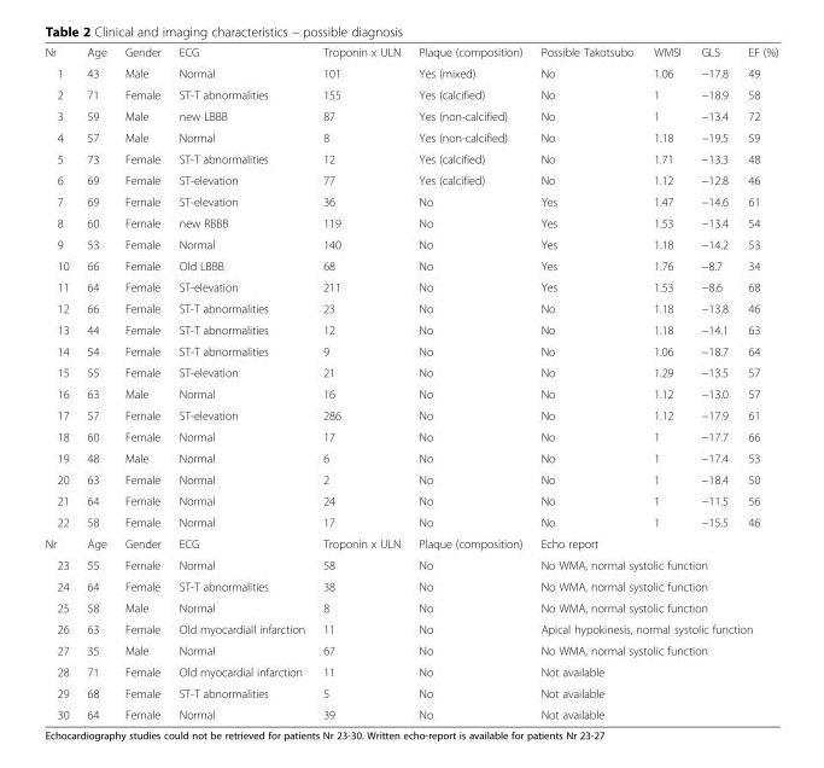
<table><tbody><tr><td>Nr</td><td>Age</td><td>Gender</td><td>ECG</td><td>Troponin x ULN</td><td>Plaque (composition)</td><td>Possible Takotsubo</td><td>WMSI</td><td>GLS</td><td>EF (%)</td></tr><tr><td>1</td><td>43</td><td>Male</td><td>Normal</td><td>101</td><td>Yes (mixed)</td><td>No</td><td>1.06</td><td>−17.8</td><td>49</td></tr><tr><td>2</td><td>71</td><td>Female</td><td>ST-T abnormalities</td><td>155</td><td>Yes (calcified)</td><td>No</td><td>1</td><td>−18.9</td><td>58</td></tr><tr><td>3</td><td>59</td><td>Male</td><td>new LBBB</td><td>87</td><td>Yes (non-calcified)</td><td>No</td><td>1</td><td>−13.4</td><td>72</td></tr><tr><td>4</td><td>57</td><td>Male</td><td>Normal</td><td>8</td><td>Yes (non-calcified)</td><td>No</td><td>1.18</td><td>−19.5</td><td>59</td></tr><tr><td>5</td><td>73</td><td>Female</td><td>ST-T abnormalities</td><td>12</td><td>Yes (calcified)</td><td>No</td><td>1.71</td><td>−13.3</td><td>48</td></tr><tr><td>6</td><td>69</td><td>Female</td><td>ST-elevation</td><td>77</td><td>Yes (calcified)</td><td>No</td><td>1.12</td><td>−12.8</td><td>46</td></tr><tr><td>7</td><td>69</td><td>Female</td><td>ST-elevation</td><td>36</td><td>No</td><td>Yes</td><td>1.47</td><td>−14.6</td><td>61</td></tr><tr><td>8</td><td>60</td><td>Female</td><td>new RBBB</td><td>119</td><td>No</td><td>Yes</td><td>1.53</td><td>−13.4</td><td>54</td></tr><tr><td>9</td><td>53</td><td>Female</td><td>Normal</td><td>140</td><td>No</td><td>Yes</td><td>1.18</td><td>−14.2</td><td>53</td></tr><tr><td>10</td><td>66</td><td>Female</td><td>Old LBBB</td><td>68</td><td>No</td><td>Yes</td><td>1.76</td><td>−8.7</td><td>34</td></tr><tr><td>11</td><td>64</td><td>Female</td><td>ST-elevation</td><td>211</td><td>No</td><td>Yes</td><td>1.53</td><td>−8.6</td><td>68</td></tr><tr><td>12</td><td>66</td><td>Female</td><td>ST-T abnormalities</td><td>23</td><td>No</td><td>No</td><td>1.18</td><td>−13.8</td><td>46</td></tr><tr><td>13</td><td>44</td><td>Female</td><td>ST-T abnormalities</td><td>12</td><td>No</td><td>No</td><td>1.18</td><td>−14.1</td><td>63</td></tr><tr><td>14</td><td>54</td><td>Female</td><td>ST-T abnormalities</td><td>9</td><td>No</td><td>No</td><td>1.06</td><td>−18.7</td><td>64</td></tr><tr><td>15</td><td>55</td><td>Female</td><td>ST-elevation</td><td>21</td><td>No</td><td>No</td><td>1.29</td><td>−13.5</td><td>57</td></tr><tr><td>16</td><td>63</td><td>Male</td><td>Normal</td><td>16</td><td>No</td><td>No</td><td>1.12</td><td>−13.0</td><td>57</td></tr><tr><td>17</td><td>57</td><td>Female</td><td>ST-elevation</td><td>286</td><td>No</td><td>No</td><td>1.12</td><td>−17.9</td><td>61</td></tr><tr><td>18</td><td>60</td><td>Female</td><td>Normal</td><td>17</td><td>No</td><td>No</td><td>1</td><td>−17.7</td><td>66</td></tr><tr><td>19</td><td>48</td><td>Male</td><td>Normal</td><td>6</td><td>No</td><td>No</td><td>1</td><td>−17.4</td><td>53</td></tr><tr><td>20</td><td>63</td><td>Female</td><td>Normal</td><td>2</td><td>No</td><td>No</td><td>1</td><td>−18.4</td><td>50</td></tr><tr><td>21</td><td>64</td><td>Female</td><td>Normal</td><td>24</td><td>No</td><td>No</td><td>1</td><td>−11.5</td><td>56</td></tr><tr><td>22</td><td>58</td><td>Female</td><td>Normal</td><td>17</td><td>No</td><td>No</td><td>1</td><td>−15.5</td><td>46</td></tr><tr><td>Nr</td><td>Age</td><td>Gender</td><td>ECG</td><td>Troponin x ULN</td><td>Plaque (composition)</td><td colspan="4">Echo report</td></tr><tr><td>23</td><td>55</td><td>Female</td><td>Normal</td><td>58</td><td>No</td><td colspan="4">No WMA, normal systolic function</td></tr><tr><td>24</td><td>64</td><td>Female</td><td>ST-T abnormalities</td><td>38</td><td>No</td><td colspan="4">No WMA, normal systolic function</td></tr><tr><td>25</td><td>58</td><td>Male</td><td>Normal</td><td>8</td><td>No</td><td colspan="4">No WMA, normal systolic function</td></tr><tr><td>26</td><td>63</td><td>Female</td><td>Old myocardiall infarction</td><td>11</td><td>No</td><td colspan="4">Apical hypokinesis, normal systolic function</td></tr><tr><td>27</td><td>35</td><td>Male</td><td>Normal</td><td>67</td><td>No</td><td colspan="4">No WMA, normal systolic function</td></tr><tr><td>28</td><td>71</td><td>Female</td><td>Old myocardial infarction</td><td>11</td><td>No</td><td colspan="4">Not available</td></tr><tr><td>29</td><td>68</td><td>Female</td><td>ST-T abnormalities</td><td>5</td><td>No</td><td colspan="4">Not available</td></tr><tr><td>30</td><td>64</td><td>Female</td><td>Normal</td><td>39</td><td>No</td><td colspan="4">Not available</td></tr></tbody></table>